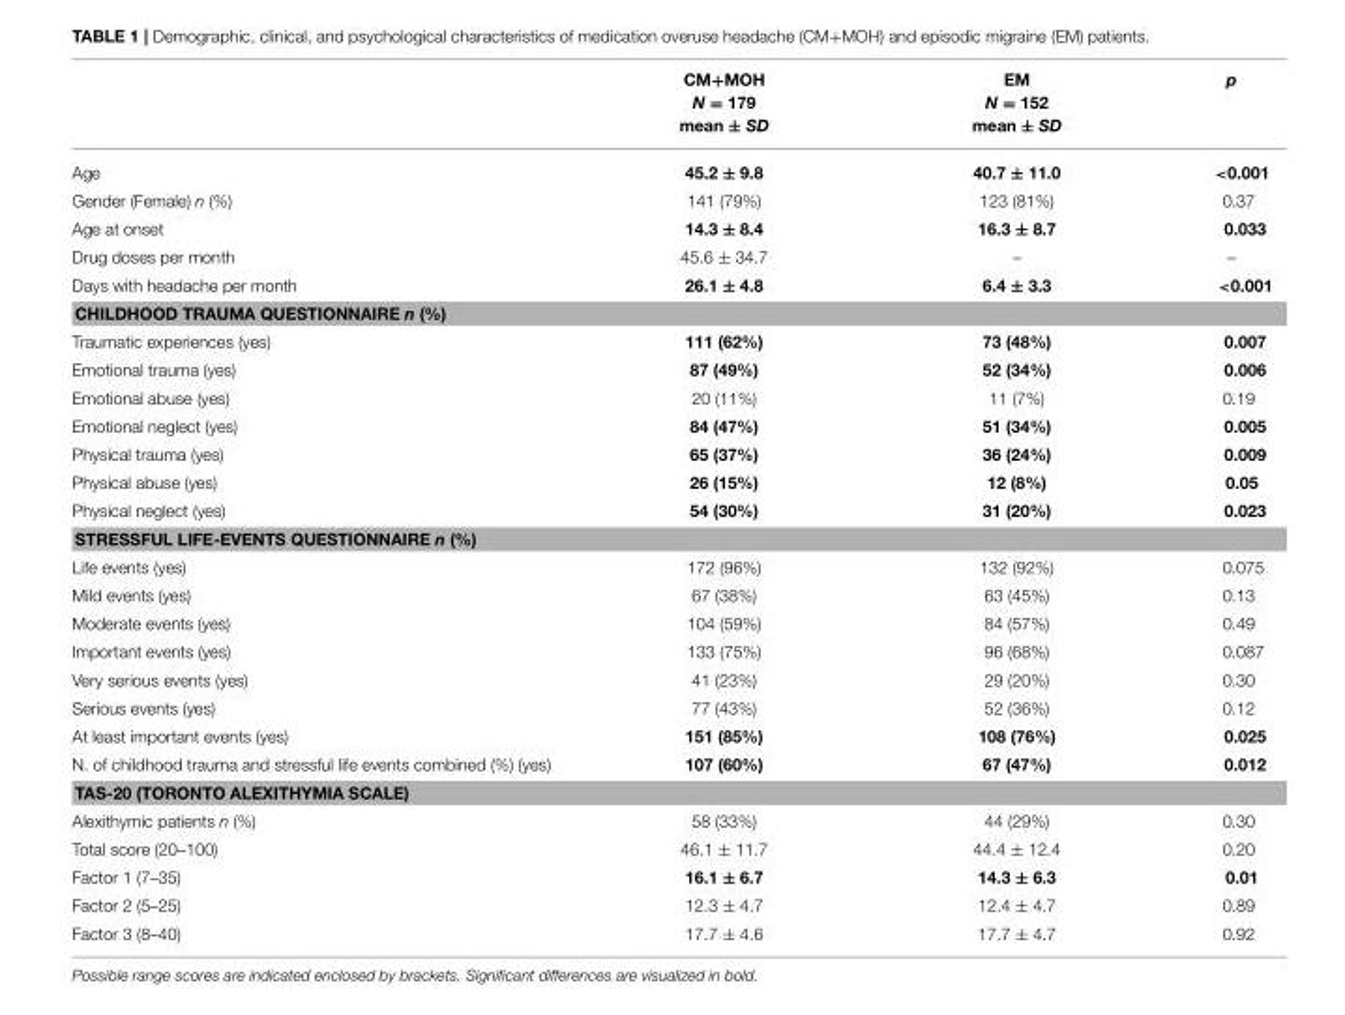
<table><thead><tr><td></td><td>CM+MOH N = 179 mean ± SD</td><td>EM N = 152 mean ± SD</td><td>p</td></tr></thead><tbody><tr><td>Age</td><td>45.2 ± 9.8</td><td>40.7 ± 11.0</td><td>&lt;0.001</td></tr><tr><td>Gender (Female) n (%)</td><td>141 (79%)</td><td>123 (81%)</td><td>0.37</td></tr><tr><td>Age at onset</td><td>14.3 ± 8.4</td><td>16.3 ± 8.7</td><td>0.033</td></tr><tr><td>Drug doses per month</td><td>45.6 ± 34.7</td><td>–</td><td>–</td></tr><tr><td>Days with headache per month</td><td>26.1 ± 4.8</td><td>6.4 ± 3.3</td><td>&lt;0.001</td></tr><tr><td colspan="4">CHILDHOOD TRAUMA QUESTIONNAIRE n (%)</td></tr><tr><td>Traumatic experiences (yes)</td><td>111 (62%)</td><td>73 (48%)</td><td>0.007</td></tr><tr><td>Emotional trauma (yes)</td><td>87 (49%)</td><td>52 (34%)</td><td>0.006</td></tr><tr><td>Emotional abuse (yes)</td><td>20 (11%)</td><td>11 (7%)</td><td>0.19</td></tr><tr><td>Emotional neglect (yes)</td><td>84 (47%)</td><td>51 (34%)</td><td>0.005</td></tr><tr><td>Physical trauma (yes)</td><td>65 (37%)</td><td>36 (24%)</td><td>0.009</td></tr><tr><td>Physical abuse (yes)</td><td>26 (15%)</td><td>12 (8%)</td><td>0.05</td></tr><tr><td>Physical neglect (yes)</td><td>54 (30%)</td><td>31 (20%)</td><td>0.023</td></tr><tr><td colspan="4">STRESSFUL LIFE-EVENTS QUESTIONNAIRE n (%)</td></tr><tr><td>Life events (yes)</td><td>172 (96%)</td><td>132 (92%)</td><td>0.075</td></tr><tr><td>Mild events (yes)</td><td>67 (38%)</td><td>63 (45%)</td><td>0.13</td></tr><tr><td>Moderate events (yes)</td><td>104 (59%)</td><td>84 (57%)</td><td>0.49</td></tr><tr><td>Important events (yes)</td><td>133 (75%)</td><td>96 (68%)</td><td>0.087</td></tr><tr><td>Very serious events (yes)</td><td>41 (23%)</td><td>29 (20%)</td><td>0.30</td></tr><tr><td>Serious events (yes)</td><td>77 (43%)</td><td>52 (36%)</td><td>0.12</td></tr><tr><td>At least important events (yes)</td><td>151 (85%)</td><td>108 (76%)</td><td>0.025</td></tr><tr><td>N. of childhood trauma and stressful life events combined (%) (yes)</td><td>107 (60%)</td><td>67 (47%)</td><td>0.012</td></tr><tr><td colspan="4">TAS-20 (TORONTO ALEXITHYMIA SCALE)</td></tr><tr><td>Alexithymic patients n (%)</td><td>58 (33%)</td><td>44 (29%)</td><td>0.30</td></tr><tr><td>Total score (20–100)</td><td>46.1 ± 11.7</td><td>44.4 ± 12.4</td><td>0.20</td></tr><tr><td>Factor 1 (7–35)</td><td>16.1 ± 6.7</td><td>14.3 ± 6.3</td><td>0.01</td></tr><tr><td>Factor 2 (5–25)</td><td>12.3 ± 4.7</td><td>12.4 ± 4.7</td><td>0.89</td></tr><tr><td>Factor 3 (8–40)</td><td>17.7 ± 4.6</td><td>17.7 ± 4.7</td><td>0.92</td></tr></tbody></table>